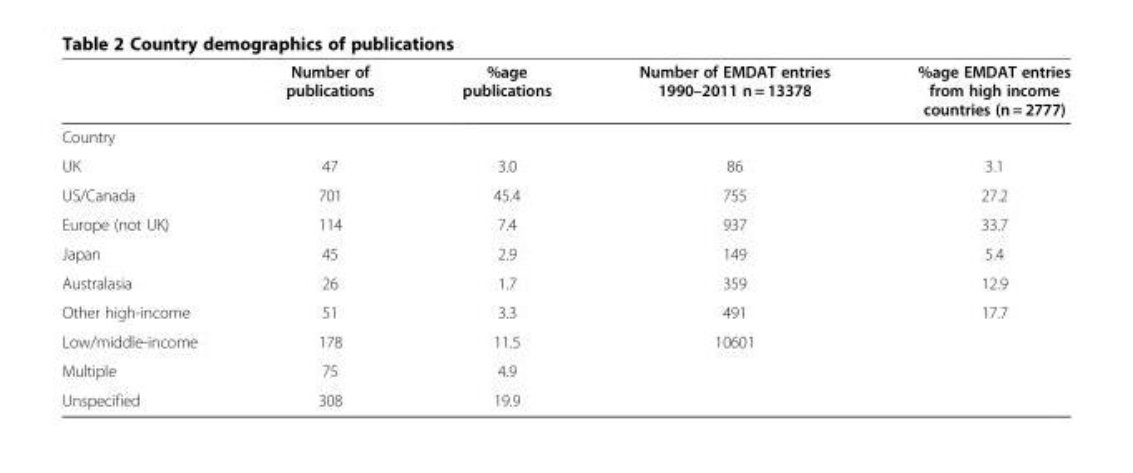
<table><thead><tr><td></td><td>Number of publications</td><td>%age publications</td><td>Number of EMDAT entries 1990–2011 n = 13378</td><td>%age EMDAT entries from high income countries (n = 2777)</td></tr></thead><tbody><tr><td colspan="5">Country</td></tr><tr><td>UK</td><td>47</td><td>3.0</td><td>86</td><td>3.1</td></tr><tr><td>US/Canada</td><td>701</td><td>45.4</td><td>755</td><td>27.2</td></tr><tr><td>Europe (not UK)</td><td>114</td><td>7.4</td><td>937</td><td>33.7</td></tr><tr><td>Japan</td><td>45</td><td>2.9</td><td>149</td><td>5.4</td></tr><tr><td>Australasia</td><td>26</td><td>1.7</td><td>359</td><td>12.9</td></tr><tr><td>Other high-income</td><td>51</td><td>3.3</td><td>491</td><td>17.7</td></tr><tr><td>Low/middle-income</td><td>178</td><td>11.5</td><td>10601</td><td></td></tr><tr><td>Multiple</td><td>75</td><td>4.9</td><td></td><td></td></tr><tr><td>Unspecified</td><td>308</td><td>19.9</td><td></td><td></td></tr></tbody></table>